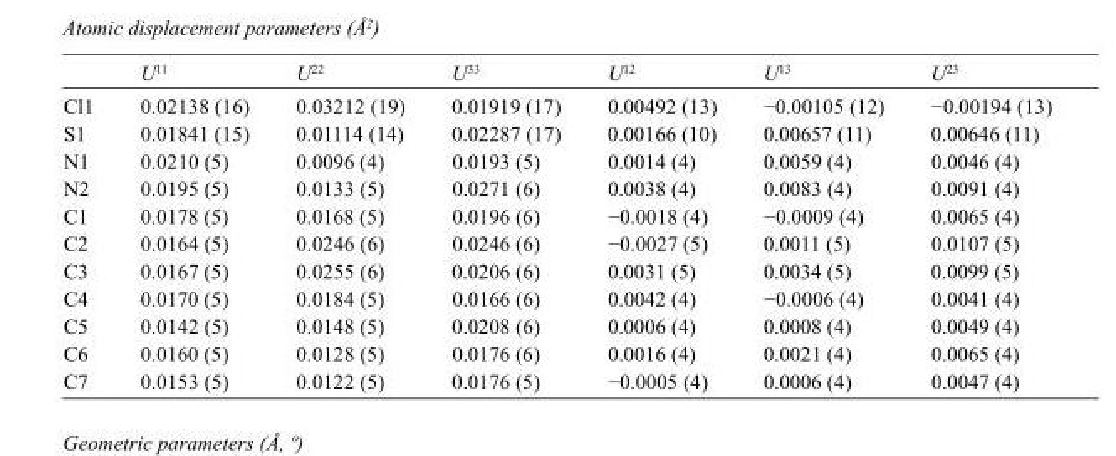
<table><thead><tr><td></td><td>U<sup>11</sup></td><td>U<sup>22</sup></td><td>U<sup>33</sup></td><td>U<sup>12</sup></td><td>U<sup>13</sup></td><td>U<sup>23</sup></td></tr></thead><tbody><tr><td>Cl1</td><td>0.02138 (16)</td><td>0.03212 (19)</td><td>0.01919 (17)</td><td>0.00492 (13)</td><td>−0.00105 (12)</td><td>−0.00194 (13)</td></tr><tr><td>S1</td><td>0.01841 (15)</td><td>0.01114 (14)</td><td>0.02287 (17)</td><td>0.00166 (10)</td><td>0.00657 (11)</td><td>0.00646 (11)</td></tr><tr><td>N1</td><td>0.0210 (5)</td><td>0.0096 (4)</td><td>0.0193 (5)</td><td>0.0014 (4)</td><td>0.0059 (4)</td><td>0.0046 (4)</td></tr><tr><td>N2</td><td>0.0195 (5)</td><td>0.0133 (5)</td><td>0.0271 (6)</td><td>0.0038 (4)</td><td>0.0083 (4)</td><td>0.0091 (4)</td></tr><tr><td>C1</td><td>0.0178 (5)</td><td>0.0168 (5)</td><td>0.0196 (6)</td><td>−0.0018 (4)</td><td>−0.0009 (4)</td><td>0.0065 (4)</td></tr><tr><td>C2</td><td>0.0164 (5)</td><td>0.0246 (6)</td><td>0.0246 (6)</td><td>−0.0027 (5)</td><td>0.0011 (5)</td><td>0.0107 (5)</td></tr><tr><td>C3</td><td>0.0167 (5)</td><td>0.0255 (6)</td><td>0.0206 (6)</td><td>0.0031 (5)</td><td>0.0034 (5)</td><td>0.0099 (5)</td></tr><tr><td>C4</td><td>0.0170 (5)</td><td>0.0184 (5)</td><td>0.0166 (6)</td><td>0.0042 (4)</td><td>−0.0006 (4)</td><td>0.0041 (4)</td></tr><tr><td>C5</td><td>0.0142 (5)</td><td>0.0148 (5)</td><td>0.0208 (6)</td><td>0.0006 (4)</td><td>0.0008 (4)</td><td>0.0049 (4)</td></tr><tr><td>C6</td><td>0.0160 (5)</td><td>0.0128 (5)</td><td>0.0176 (6)</td><td>0.0016 (4)</td><td>0.0021 (4)</td><td>0.0065 (4)</td></tr><tr><td>C7</td><td>0.0153 (5)</td><td>0.0122 (5)</td><td>0.0176 (5)</td><td>−0.0005 (4)</td><td>0.0006 (4)</td><td>0.0047 (4)</td></tr></tbody></table>